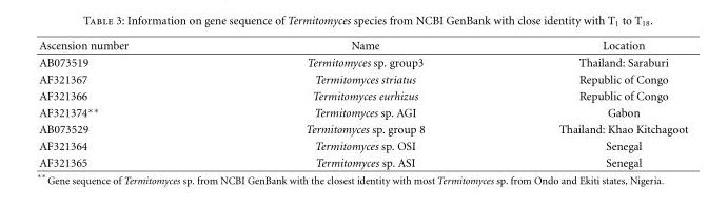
<table><thead><tr><td>Ascension number</td><td>Name</td><td>Location</td></tr></thead><tbody><tr><td>AB073519</td><td>Termitomyces sp. group3</td><td>Thailand: Saraburi</td></tr><tr><td>AF321367</td><td>Termitomyces striatus</td><td>Republic of Congo</td></tr><tr><td>AF321366</td><td>Termitomyces eurhizus</td><td>Republic of Congo</td></tr><tr><td>AF321374∗∗</td><td>Termitomyces sp. AGI</td><td>Gabon</td></tr><tr><td>AB073529</td><td>Termitomyces sp. group 8</td><td>Thailand: Khao Kitchagoot</td></tr><tr><td>AF321364</td><td>Termitomyces sp. OSI</td><td>Senegal</td></tr><tr><td>AF321365</td><td>Termitomyces sp. ASI</td><td>Senegal</td></tr></tbody></table>